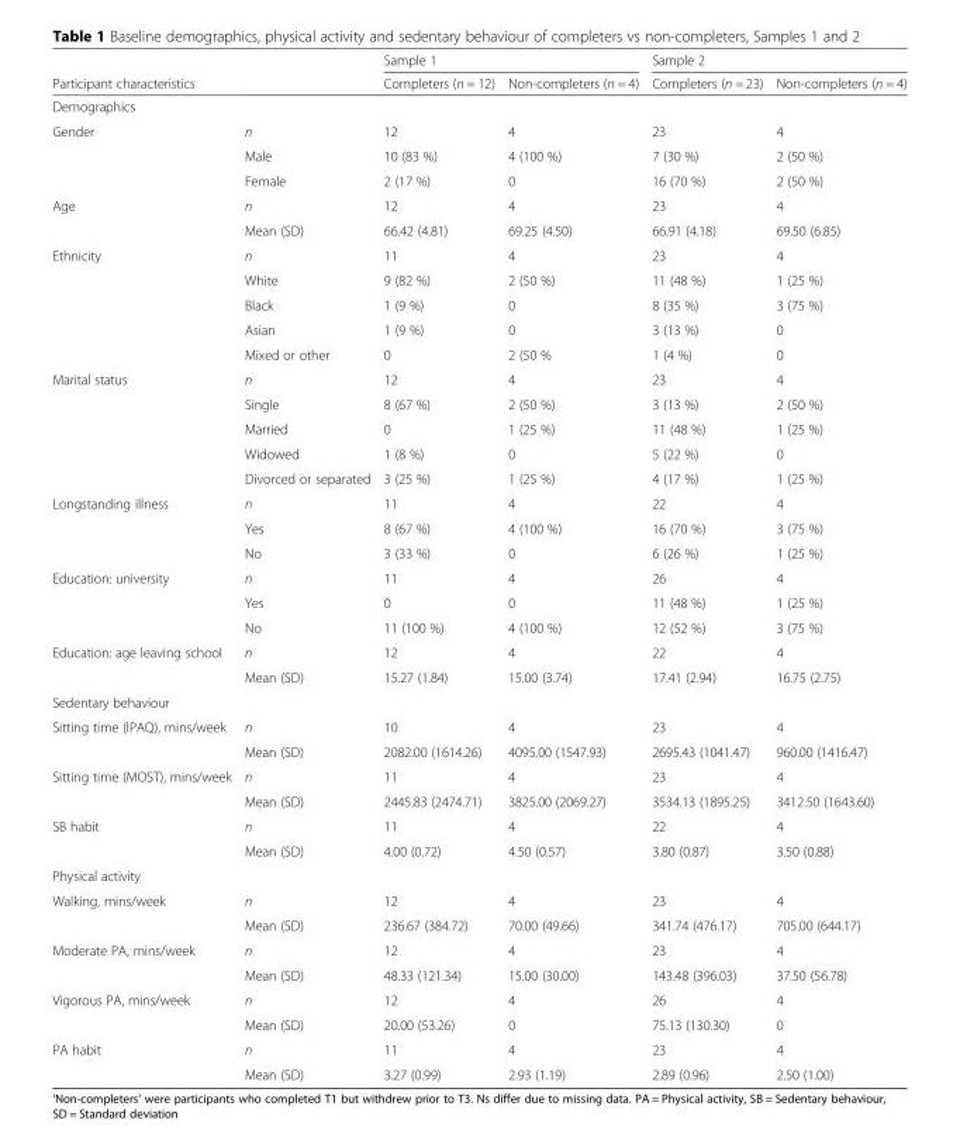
<table><thead><tr><td rowspan="2">Participant characteristics</td><td rowspan="2"></td><td colspan="2">Sample 1</td><td colspan="2">Sample 2</td></tr><tr><td>Completers (n = 12)</td><td>Non-completers (n = 4)</td><td>Completers (n = 23)</td><td>Non-completers (n = 4)</td></tr></thead><tbody><tr><td colspan="6">Demographics</td></tr><tr><td rowspan="3">Gender</td><td>n</td><td>12</td><td>4</td><td>23</td><td>4</td></tr><tr><td>Male</td><td>10 (83 %)</td><td>4 (100 %)</td><td>7 (30 %)</td><td>2 (50 %)</td></tr><tr><td>Female</td><td>2 (17 %)</td><td>0</td><td>16 (70 %)</td><td>2 (50 %)</td></tr><tr><td rowspan="2">Age</td><td>n</td><td>12</td><td>4</td><td>23</td><td>4</td></tr><tr><td>Mean (SD)</td><td>66.42 (4.81)</td><td>69.25 (4.50)</td><td>66.91 (4.18)</td><td>69.50 (6.85)</td></tr><tr><td rowspan="5">Ethnicity</td><td>n</td><td>11</td><td>4</td><td>23</td><td>4</td></tr><tr><td>White</td><td>9 (82 %)</td><td>2 (50 %)</td><td>11 (48 %)</td><td>1 (25 %)</td></tr><tr><td>Black</td><td>1 (9 %)</td><td>0</td><td>8 (35 %)</td><td>3 (75 %)</td></tr><tr><td>Asian</td><td>1 (9 %)</td><td>0</td><td>3 (13 %)</td><td>0</td></tr><tr><td>Mixed or other</td><td>0</td><td>2 (50 %</td><td>1 (4 %)</td><td>0</td></tr><tr><td rowspan="5">Marital status</td><td>n</td><td>12</td><td>4</td><td>23</td><td>4</td></tr><tr><td>Single</td><td>8 (67 %)</td><td>2 (50 %)</td><td>3 (13 %)</td><td>2 (50 %)</td></tr><tr><td>Married</td><td>0</td><td>1 (25 %)</td><td>11 (48 %)</td><td>1 (25 %)</td></tr><tr><td>Widowed</td><td>1 (8 %)</td><td>0</td><td>5 (22 %)</td><td>0</td></tr><tr><td>Divorced or separated</td><td>3 (25 %)</td><td>1 (25 %)</td><td>4 (17 %)</td><td>1 (25 %)</td></tr><tr><td rowspan="3">Longstanding illness</td><td>n</td><td>11</td><td>4</td><td>22</td><td>4</td></tr><tr><td>Yes</td><td>8 (67 %)</td><td>4 (100 %)</td><td>16 (70 %)</td><td>3 (75 %)</td></tr><tr><td>No</td><td>3 (33 %)</td><td>0</td><td>6 (26 %)</td><td>1 (25 %)</td></tr><tr><td rowspan="3">Education: university</td><td>n</td><td>11</td><td>4</td><td>26</td><td>4</td></tr><tr><td>Yes</td><td>0</td><td>0</td><td>11 (48 %)</td><td>1 (25 %)</td></tr><tr><td>No</td><td>11 (100 %)</td><td>4 (100 %)</td><td>12 (52 %)</td><td>3 (75 %)</td></tr><tr><td rowspan="2">Education: age leaving school</td><td>n</td><td>12</td><td>4</td><td>22</td><td>4</td></tr><tr><td>Mean (SD)</td><td>15.27 (1.84)</td><td>15.00 (3.74)</td><td>17.41 (2.94)</td><td>16.75 (2.75)</td></tr><tr><td colspan="6">Sedentary behaviour</td></tr><tr><td rowspan="2">Sitting time (IPAQ), mins/week</td><td>n</td><td>10</td><td>4</td><td>23</td><td>4</td></tr><tr><td>Mean (SD)</td><td>2082.00 (1614.26)</td><td>4095.00 (1547.93)</td><td>2695.43 (1041.47)</td><td>960.00 (1416.47)</td></tr><tr><td rowspan="2">Sitting time (MOST), mins/week</td><td>n</td><td>11</td><td>4</td><td>23</td><td>4</td></tr><tr><td>Mean (SD)</td><td>2445.83 (2474.71)</td><td>3825.00 (2069.27)</td><td>3534.13 (1895.25)</td><td>3412.50 (1643.60)</td></tr><tr><td rowspan="2">SB habit</td><td>n</td><td>11</td><td>4</td><td>22</td><td>4</td></tr><tr><td>Mean (SD)</td><td>4.00 (0.72)</td><td>4.50 (0.57)</td><td>3.80 (0.87)</td><td>3.50 (0.88)</td></tr><tr><td colspan="6">Physical activity</td></tr><tr><td rowspan="2">Walking, mins/week</td><td>n</td><td>12</td><td>4</td><td>23</td><td>4</td></tr><tr><td>Mean (SD)</td><td>236.67 (384.72)</td><td>70.00 (49.66)</td><td>341.74 (476.17)</td><td>705.00 (644.17)</td></tr><tr><td rowspan="2">Moderate PA, mins/week</td><td>n</td><td>12</td><td>4</td><td>23</td><td>4</td></tr><tr><td>Mean (SD)</td><td>48.33 (121.34)</td><td>15.00 (30.00)</td><td>143.48 (396.03)</td><td>37.50 (56.78)</td></tr><tr><td rowspan="2">Vigorous PA, mins/week</td><td>n</td><td>12</td><td>4</td><td>26</td><td>4</td></tr><tr><td>Mean (SD)</td><td>20.00 (53.26)</td><td>0</td><td>75.13 (130.30)</td><td>0</td></tr><tr><td rowspan="2">PA habit</td><td>n</td><td>11</td><td>4</td><td>23</td><td>4</td></tr><tr><td>Mean (SD)</td><td>3.27 (0.99)</td><td>2.93 (1.19)</td><td>2.89 (0.96)</td><td>2.50 (1.00)</td></tr></tbody></table>